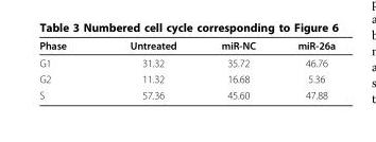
<table><thead><tr><td>Phase</td><td>Untreated</td><td>miR-NC</td><td>miR-26a</td></tr></thead><tbody><tr><td>G1</td><td>31.32</td><td>35.72</td><td>46.76</td></tr><tr><td>G2</td><td>11.32</td><td>16.68</td><td>5.36</td></tr><tr><td>S</td><td>57.36</td><td>45.60</td><td>47.88</td></tr></tbody></table>